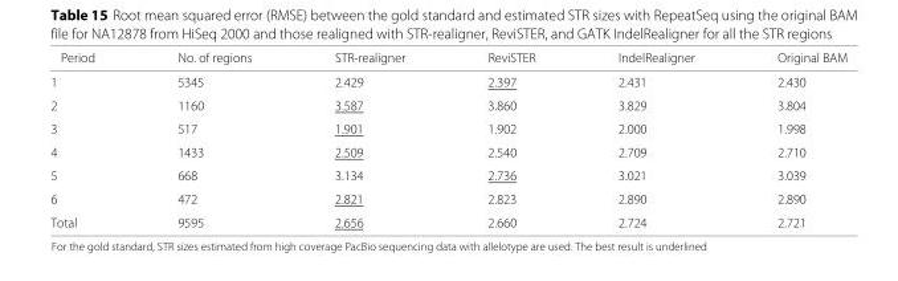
<table><thead><tr><td>Period</td><td>No. of regions</td><td>STR-realigner</td><td>ReviSTER</td><td>IndelRealigner</td><td>Original BAM</td></tr></thead><tbody><tr><td>1</td><td>5345</td><td>2.429</td><td>2.397</td><td>2.431</td><td>2.430</td></tr><tr><td>2</td><td>1160</td><td>3.587</td><td>3.860</td><td>3.829</td><td>3.804</td></tr><tr><td>3</td><td>517</td><td>1.901</td><td>1.902</td><td>2.000</td><td>1.998</td></tr><tr><td>4</td><td>1433</td><td>2.509</td><td>2.540</td><td>2.709</td><td>2.710</td></tr><tr><td>5</td><td>668</td><td>3.134</td><td>2.736</td><td>3.021</td><td>3.039</td></tr><tr><td>6</td><td>472</td><td>2.821</td><td>2.823</td><td>2.890</td><td>2.890</td></tr><tr><td>Total</td><td>9595</td><td>2.656</td><td>2.660</td><td>2.724</td><td>2.721</td></tr></tbody></table>